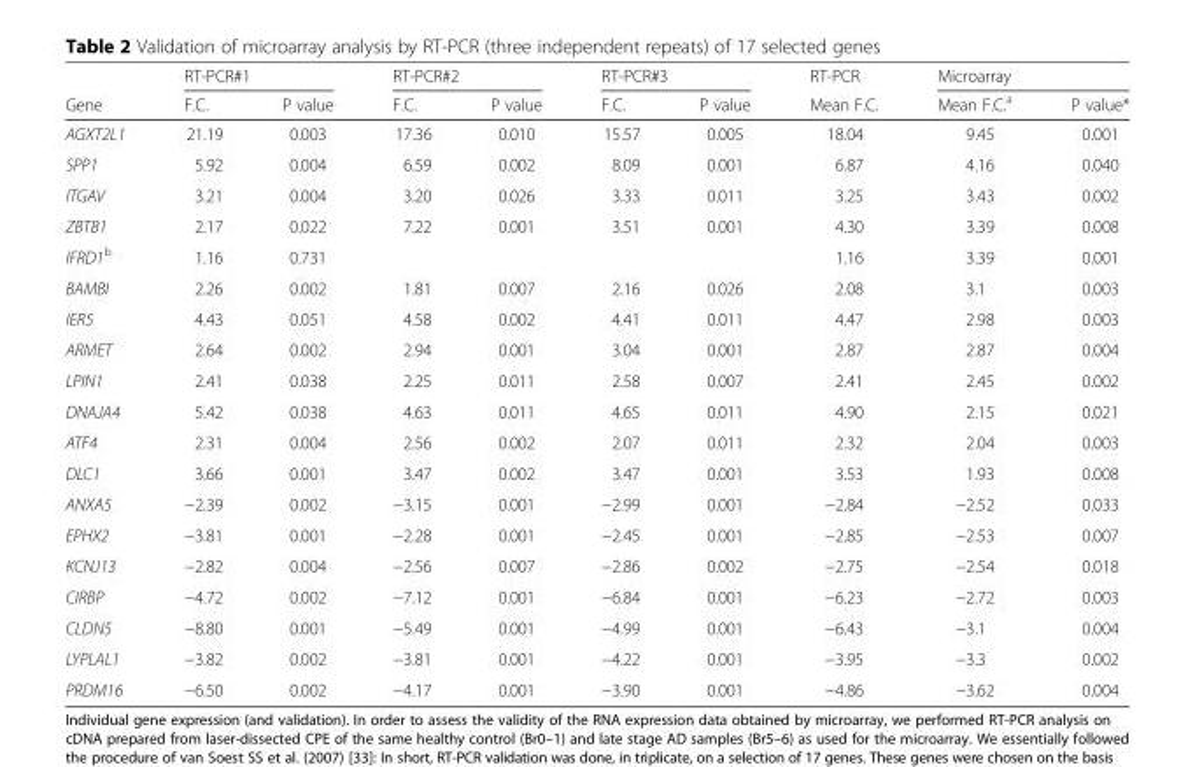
<table><thead><tr><td rowspan="2">Gene</td><td colspan="2">RT-PCR#1</td><td colspan="2">RT-PCR#2</td><td colspan="2">RT-PCR#3</td><td rowspan="2">RT-PCR Mean F.C.</td><td colspan="2">Microarray</td></tr><tr><td>F.C.</td><td>P value</td><td>F.C.</td><td>P value</td><td>F.C.</td><td>P value</td><td>Mean F.C.<sup>a</sup></td><td>P value*</td></tr></thead><tbody><tr><td>AGXT2L1</td><td>21.19</td><td>0.003</td><td>17.36</td><td>0.010</td><td>15.57</td><td>0.005</td><td>18.04</td><td>9.45</td><td>0.001</td></tr><tr><td>SPP1</td><td>5.92</td><td>0.004</td><td>6.59</td><td>0.002</td><td>8.09</td><td>0.001</td><td>6.87</td><td>4.16</td><td>0.040</td></tr><tr><td>ITGAV</td><td>3.21</td><td>0.004</td><td>3.20</td><td>0.026</td><td>3.33</td><td>0.011</td><td>3.25</td><td>3.43</td><td>0.002</td></tr><tr><td>ZBTB1</td><td>2.17</td><td>0.022</td><td>7.22</td><td>0.001</td><td>3.51</td><td>0.001</td><td>4.30</td><td>3.39</td><td>0.008</td></tr><tr><td>IFRD1<sup>b</sup></td><td>1.16</td><td>0.731</td><td></td><td></td><td></td><td></td><td>1.16</td><td>3.39</td><td>0.001</td></tr><tr><td>BAMBI</td><td>2.26</td><td>0.002</td><td>1.81</td><td>0.007</td><td>2.16</td><td>0.026</td><td>2.08</td><td>3.1</td><td>0.003</td></tr><tr><td>IER5</td><td>4.43</td><td>0.051</td><td>4.58</td><td>0.002</td><td>4.41</td><td>0.011</td><td>4.47</td><td>2.98</td><td>0.003</td></tr><tr><td>ARMET</td><td>2.64</td><td>0.002</td><td>2.94</td><td>0.001</td><td>3.04</td><td>0.001</td><td>2.87</td><td>2.87</td><td>0.004</td></tr><tr><td>LPIN1</td><td>2.41</td><td>0.038</td><td>2.25</td><td>0.011</td><td>2.58</td><td>0.007</td><td>2.41</td><td>2.45</td><td>0.002</td></tr><tr><td>DNAJA4</td><td>5.42</td><td>0.038</td><td>4.63</td><td>0.011</td><td>4.65</td><td>0.011</td><td>4.90</td><td>2.15</td><td>0.021</td></tr><tr><td>ATF4</td><td>2.31</td><td>0.004</td><td>2.56</td><td>0.002</td><td>2.07</td><td>0.011</td><td>2.32</td><td>2.04</td><td>0.003</td></tr><tr><td>DLC1</td><td>3.66</td><td>0.001</td><td>3.47</td><td>0.002</td><td>3.47</td><td>0.001</td><td>3.53</td><td>1.93</td><td>0.008</td></tr><tr><td>ANXA5</td><td>−2.39</td><td>0.002</td><td>−3.15</td><td>0.001</td><td>−2.99</td><td>0.001</td><td>−2.84</td><td>−2.52</td><td>0.033</td></tr><tr><td>EPHX2</td><td>−3.81</td><td>0.001</td><td>−2.28</td><td>0.001</td><td>−2.45</td><td>0.001</td><td>−2.85</td><td>−2.53</td><td>0.007</td></tr><tr><td>KCNJ13</td><td>−2.82</td><td>0.004</td><td>−2.56</td><td>0.007</td><td>−2.86</td><td>0.002</td><td>−2.75</td><td>−2.54</td><td>0.018</td></tr><tr><td>CIRBP</td><td>−4.72</td><td>0.002</td><td>−7.12</td><td>0.001</td><td>−6.84</td><td>0.001</td><td>−6.23</td><td>−2.72</td><td>0.003</td></tr><tr><td>CLDN5</td><td>−8.80</td><td>0.001</td><td>−5.49</td><td>0.001</td><td>−4.99</td><td>0.001</td><td>−6.43</td><td>−3.1</td><td>0.004</td></tr><tr><td>LYPLAL1</td><td>−3.82</td><td>0.002</td><td>−3.81</td><td>0.001</td><td>−4.22</td><td>0.001</td><td>−3.95</td><td>−3.3</td><td>0.002</td></tr><tr><td>PRDM16</td><td>−6.50</td><td>0.002</td><td>−4.17</td><td>0.001</td><td>−3.90</td><td>0.001</td><td>−4.86</td><td>−3.62</td><td>0.004</td></tr></tbody></table>